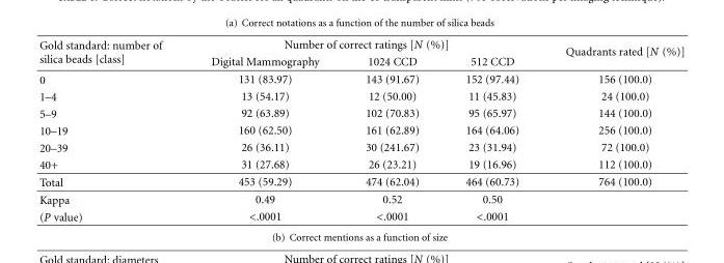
<table><thead><tr><td rowspan="2">Gold standard: number of silica beads [class]</td><td colspan="3">Number of correct ratings [N (%)]</td><td rowspan="2">Quadrants rated [N (%)]</td></tr><tr><td>Digital Mammography</td><td>1024 CCD</td><td>512 CCD</td></tr></thead><tbody><tr><td>0</td><td>131 (83.97)</td><td>143 (91.67)</td><td>152 (97.44)</td><td>156 (100.0)</td></tr><tr><td>1–4</td><td>13 (54.17)</td><td>12 (50.00)</td><td>11 (45.83)</td><td>24 (100.0)</td></tr><tr><td>5–9</td><td>92 (63.89)</td><td>102 (70.83)</td><td>95 (65.97)</td><td>144 (100.0)</td></tr><tr><td>10–19</td><td>160 (62.50)</td><td>161 (62.89)</td><td>164 (64.06)</td><td>256 (100.0)</td></tr><tr><td>20–39</td><td>26 (36.11)</td><td>30 (241.67)</td><td>23 (31.94)</td><td>72 (100.0)</td></tr><tr><td>40+</td><td>31 (27.68)</td><td>26 (23.21)</td><td>19 (16.96)</td><td>112 (100.0)</td></tr><tr><td>Total</td><td>453 (59.29)</td><td>474 (62.04)</td><td>464 (60.73)</td><td>764 (100.0)</td></tr><tr><td>Kappa</td><td>0.49</td><td>0.52</td><td>0.50</td><td></td></tr><tr><td>(P value)</td><td>&lt;.0001</td><td>&lt;.0001</td><td>&lt;.0001</td><td></td></tr></tbody></table>